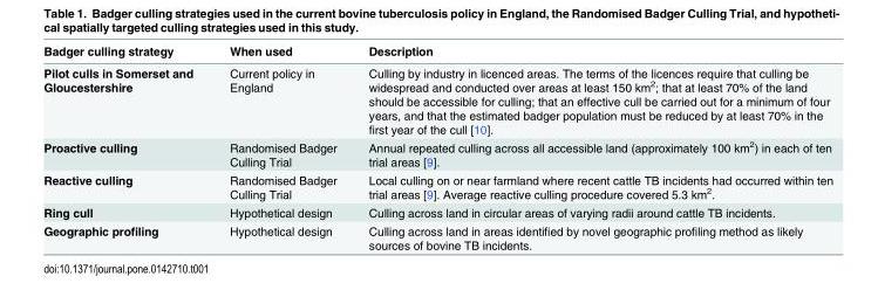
<table><thead><tr><td>Badger culling strategy</td><td>When used</td><td>Description</td></tr></thead><tbody><tr><td>Pilot culls in Somerset and Gloucestershire</td><td>Current policy in England</td><td>Culling by industry in licenced areas. The terms of the licences require that culling be widespread and conducted over areas at least 150 km<sup>2</sup>; that at least 70% of the land should be accessible for culling; that an effective cull be carried out for a minimum of four years, and that the estimated badger population must be reduced by at least 70% in the first year of the cull [10].</td></tr><tr><td>Proactive culling</td><td>Randomised Badger Culling Trial</td><td>Annual repeated culling across all accessible land (approximately 100 km<sup>2</sup>) in each of ten trial areas [9].</td></tr><tr><td>Reactive culling</td><td>Randomised Badger Culling Trial</td><td>Local culling on or near farmland where recent cattle TB incidents had occurred within ten trial areas [9]. Average reactive culling procedure covered 5.3 km<sup>2</sup>.</td></tr><tr><td>Ring cull</td><td>Hypothetical design</td><td>Culling across land in circular areas of varying radii around cattle TB incidents.</td></tr><tr><td>Geographic profiling</td><td>Hypothetical design</td><td>Culling across land in areas identified by novel geographic profiling method as likely sources of bovine TB incidents.</td></tr></tbody></table>